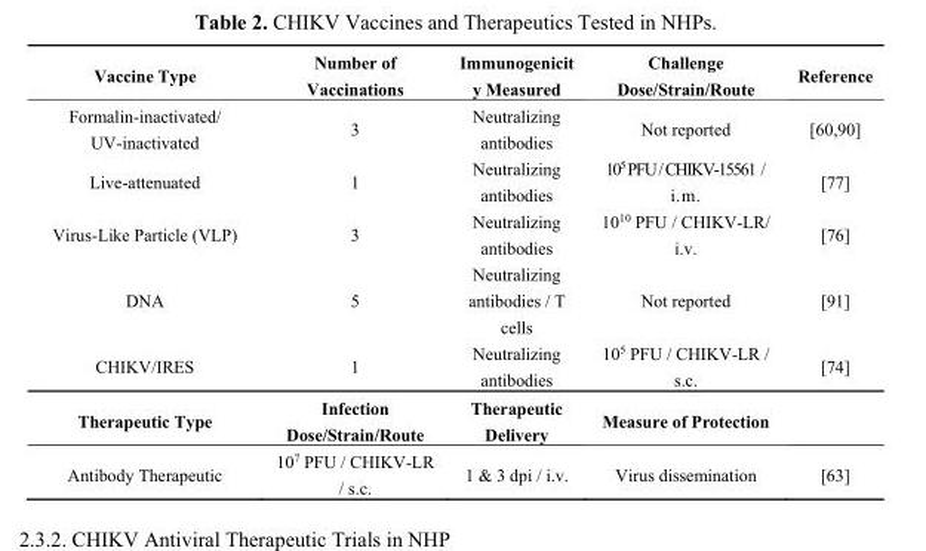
<table><thead><tr><td>Vaccine Type</td><td>Number of Vaccinations</td><td>Immunogenicit y Measured</td><td>Challenge Dose/Strain/Route</td><td>Reference</td></tr></thead><tbody><tr><td>Formalin-inactivated/ UV-inactivated</td><td>3</td><td>Neutralizing antibodies</td><td>Not reported</td><td>[60,90]</td></tr><tr><td>Live-attenuated</td><td>1</td><td>Neutralizing antibodies</td><td>10<sup>5</sup> PFU / CHIKV-15561 / i.m.</td><td>[77]</td></tr><tr><td>Virus-Like Particle (VLP)</td><td>3</td><td>Neutralizing antibodies</td><td>10<sup>10</sup> PFU / CHIKV-LR/ i.v.</td><td>[76]</td></tr><tr><td>DNA</td><td>5</td><td>Neutralizing antibodies / T cells</td><td>Not reported</td><td>[91]</td></tr><tr><td>CHIKV/IRES</td><td>1</td><td>Neutralizing antibodies</td><td>10<sup>5</sup> PFU / CHIKV-LR / s.c.</td><td>[74]</td></tr><tr><td>Therapeutic Type</td><td>Infection Dose/Strain/Route</td><td>Therapeutic Delivery</td><td>Measure of Protection</td><td></td></tr><tr><td>Antibody Therapeutic</td><td>10<sup>7</sup> PFU / CHIKV-LR / s.c.</td><td>1 &amp; 3 dpi / i.v.</td><td>Virus dissemination</td><td>[63]</td></tr></tbody></table>